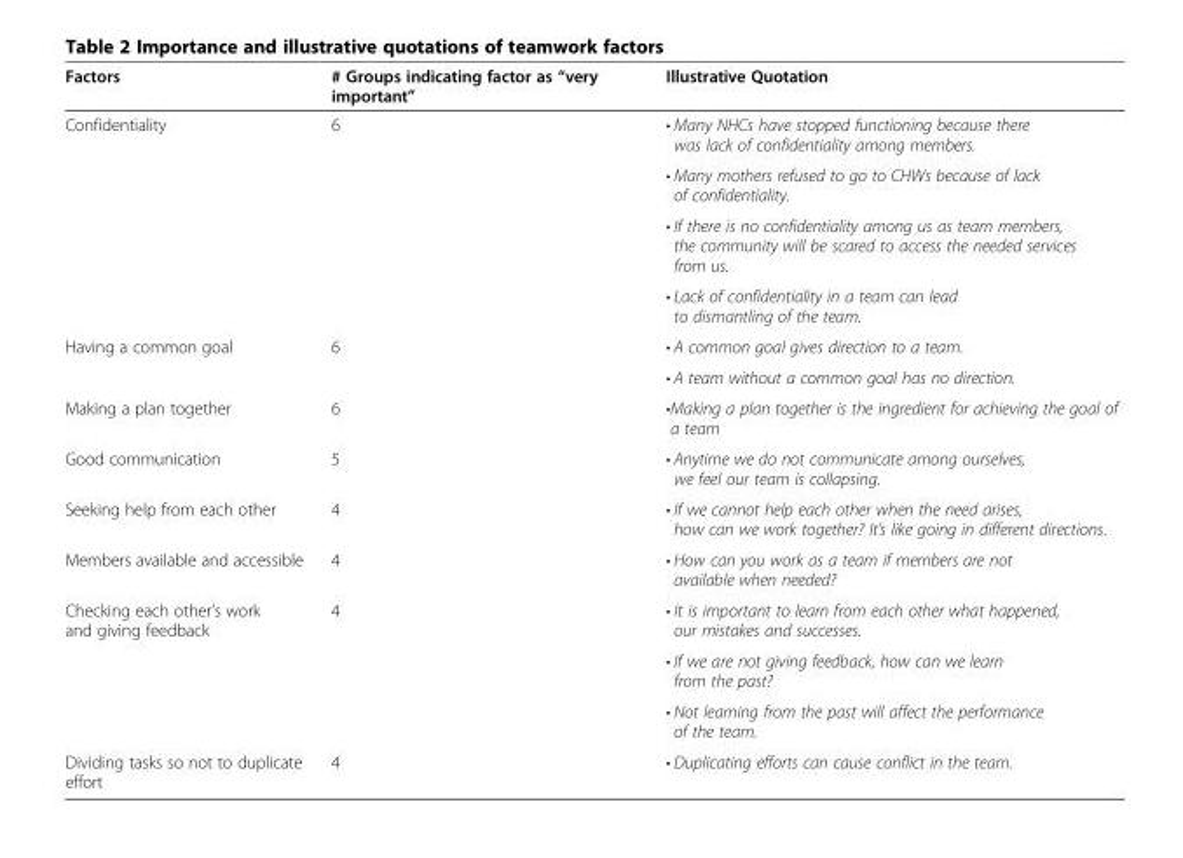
<table><thead><tr><td>Factors</td><td># Groups indicating factor as “very important”</td><td>Illustrative Quotation</td></tr></thead><tbody><tr><td rowspan="4">Confidentiality</td><td rowspan="4">6</td><td>• Many NHCs have stopped functioning because there was lack of confidentiality among members.</td></tr><tr><td>• Many mothers refused to go to CHWs because of lack of confidentiality.</td></tr><tr><td>• If there is no confidentiality among us as team members, the community will be scared to access the needed services from us.</td></tr><tr><td>• Lack of confidentiality in a team can lead to dismantling of the team.</td></tr><tr><td rowspan="2">Having a common goal</td><td rowspan="2">6</td><td>• A common goal gives direction to a team.</td></tr><tr><td>• A team without a common goal has no direction.</td></tr><tr><td>Making a plan together</td><td>6</td><td>•Making a plan together is the ingredient for achieving the goal of a team</td></tr><tr><td>Good communication</td><td>5</td><td>• Anytime we do not communicate among ourselves, we feel our team is collapsing.</td></tr><tr><td>Seeking help from each other</td><td>4</td><td>• If we cannot help each other when the need arises, how can we work together? It’s like going in different directions.</td></tr><tr><td>Members available and accessible</td><td>4</td><td>• How can you work as a team if members are not available when needed?</td></tr><tr><td rowspan="3">Checking each other’s work and giving feedback</td><td rowspan="3">4</td><td>• It is important to learn from each other what happened, our mistakes and successes.</td></tr><tr><td>• If we are not giving feedback, how can we learn from the past?</td></tr><tr><td>• Not learning from the past will affect the performance of the team.</td></tr><tr><td>Dividing tasks so not to duplicate effort</td><td>4</td><td>• Duplicating efforts can cause conflict in the team.</td></tr></tbody></table>